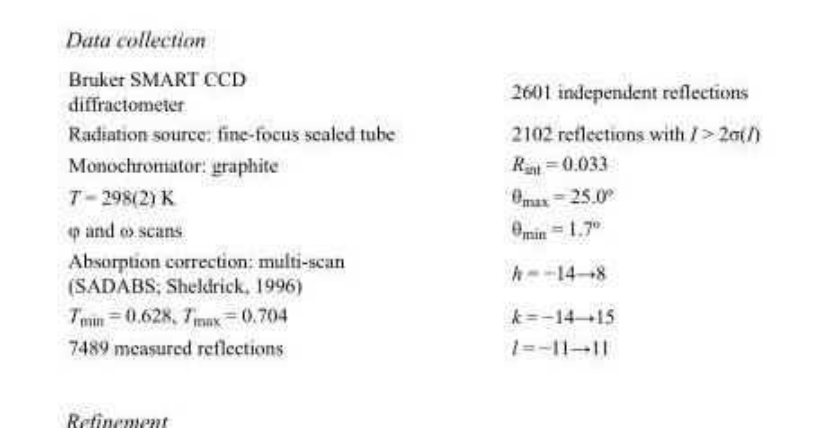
<table><tbody><tr><td>Bruker SMART CCD diffractometer</td><td>2601 independent reflections</td></tr><tr><td>Radiation source: fine-focus sealed tube</td><td>2102 reflections with I &gt; 2σ(I)</td></tr><tr><td>Monochromator: graphite</td><td>R<sub>int</sub> = 0.033</td></tr><tr><td>T = 298(2) K</td><td>θ<sub>max</sub> = 25.0º</td></tr><tr><td>φ and ω scans</td><td>θ<sub>min</sub> = 1.7º</td></tr><tr><td>Absorption correction: multi-scan (SADABS; Sheldrick, 1996)</td><td>h = −14→8</td></tr><tr><td>T<sub>min</sub> = 0.628, T<sub>max</sub> = 0.704</td><td>k = −14→15</td></tr><tr><td>7489 measured reflections</td><td>l = −11→11</td></tr></tbody></table>